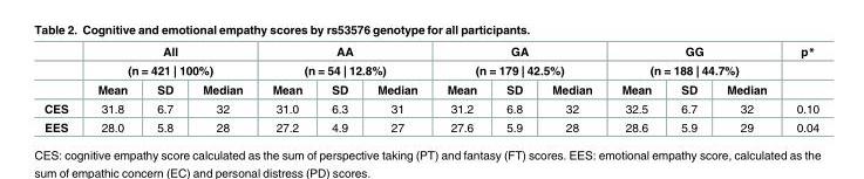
<table><thead><tr><td rowspan="3"></td><td rowspan="2" colspan="3">All (n = 421 | 100%)</td><td rowspan="2" colspan="3">AA (n = 54 | 12.8%)</td><td rowspan="2" colspan="3">GA (n = 179 | 42.5%)</td><td rowspan="2" colspan="3">GG (n = 188 | 44.7%)</td><td rowspan="3">p*</td></tr><tr></tr><tr><td>Mean</td><td>SD</td><td>Median</td><td>Mean</td><td>SD</td><td>Median</td><td>Mean</td><td>SD</td><td>Median</td><td>Mean</td><td>SD</td><td>Median</td></tr></thead><tbody><tr><td>CES</td><td>31.8</td><td>6.7</td><td>32</td><td>31.0</td><td>6.3</td><td>31</td><td>31.2</td><td>6.8</td><td>32</td><td>32.5</td><td>6.7</td><td>32</td><td>0.10</td></tr><tr><td>EES</td><td>28.0</td><td>5.8</td><td>28</td><td>27.2</td><td>4.9</td><td>27</td><td>27.6</td><td>5.9</td><td>28</td><td>28.6</td><td>5.9</td><td>29</td><td>0.04</td></tr></tbody></table>